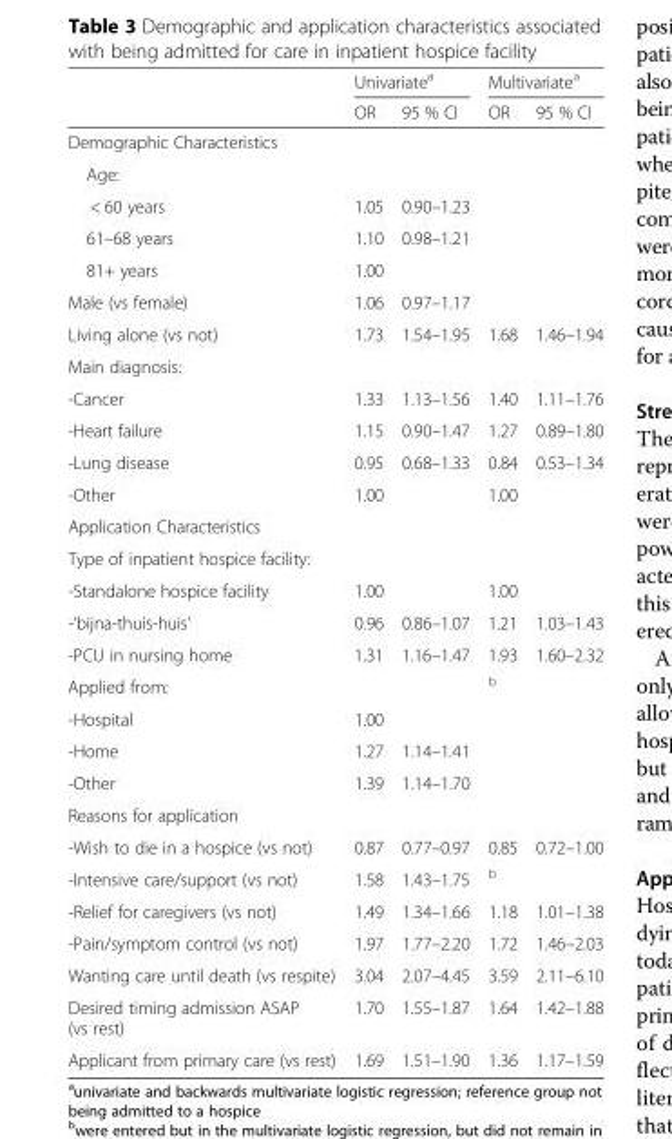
<table><thead><tr><td rowspan="2"></td><td colspan="2">Univariate<sup>a</sup></td><td colspan="2">Multivariate<sup>a</sup></td></tr><tr><td>OR</td><td>95 % CI</td><td>OR</td><td>95 % CI</td></tr></thead><tbody><tr><td colspan="5">Demographic Characteristics</td></tr><tr><td colspan="5">Age:</td></tr><tr><td>&lt; 60 years</td><td>1.05</td><td>0.90–1.23</td><td></td><td></td></tr><tr><td>61–68 years</td><td>1.10</td><td>0.98–1.21</td><td></td><td></td></tr><tr><td>81+ years</td><td>1.00</td><td></td><td></td><td></td></tr><tr><td>Male (vs female)</td><td>1.06</td><td>0.97–1.17</td><td></td><td></td></tr><tr><td>Living alone (vs not)</td><td>1.73</td><td>1.54–1.95</td><td>1.68</td><td>1.46–1.94</td></tr><tr><td colspan="5">Main diagnosis:</td></tr><tr><td>-Cancer</td><td>1.33</td><td>1.13–1.56</td><td>1.40</td><td>1.11–1.76</td></tr><tr><td>-Heart failure</td><td>1.15</td><td>0.90–1.47</td><td>1.27</td><td>0.89–1.80</td></tr><tr><td>-Lung disease</td><td>0.95</td><td>0.68–1.33</td><td>0.84</td><td>0.53–1.34</td></tr><tr><td>-Other</td><td>1.00</td><td></td><td>1.00</td><td></td></tr><tr><td colspan="5">Application Characteristics</td></tr><tr><td colspan="5">Type of inpatient hospice facility:</td></tr><tr><td>-Standalone hospice facility</td><td>1.00</td><td></td><td>1.00</td><td></td></tr><tr><td>-‘bijna-thuis-huis’</td><td>0.96</td><td>0.86–1.07</td><td>1.21</td><td>1.03–1.43</td></tr><tr><td>-PCU in nursing home</td><td>1.31</td><td>1.16–1.47</td><td>1.93</td><td>1.60–2.32</td></tr><tr><td>Applied from:</td><td></td><td></td><td><sup>b</sup></td><td></td></tr><tr><td>-Hospital</td><td>1.00</td><td></td><td></td><td></td></tr><tr><td>-Home</td><td>1.27</td><td>1.14–1.41</td><td></td><td></td></tr><tr><td>-Other</td><td>1.39</td><td>1.14–1.70</td><td></td><td></td></tr><tr><td colspan="5">Reasons for application</td></tr><tr><td>-Wish to die in a hospice (vs not)</td><td>0.87</td><td>0.77–0.97</td><td>0.85</td><td>0.72–1.00</td></tr><tr><td>-Intensive care/support (vs not)</td><td>1.58</td><td>1.43–1.75</td><td><sup>b</sup></td><td></td></tr><tr><td>-Relief for caregivers (vs not)</td><td>1.49</td><td>1.34–1.66</td><td>1.18</td><td>1.01–1.38</td></tr><tr><td>-Pain/symptom control (vs not)</td><td>1.97</td><td>1.77–2.20</td><td>1.72</td><td>1.46–2.03</td></tr><tr><td>Wanting care until death (vs respite)</td><td>3.04</td><td>2.07–4.45</td><td>3.59</td><td>2.11–6.10</td></tr><tr><td>Desired timing admission ASAP (vs rest)</td><td>1.70</td><td>1.55–1.87</td><td>1.64</td><td>1.42–1.88</td></tr><tr><td>Applicant from primary care (vs rest)</td><td>1.69</td><td>1.51–1.90</td><td>1.36</td><td>1.17–1.59</td></tr></tbody></table>